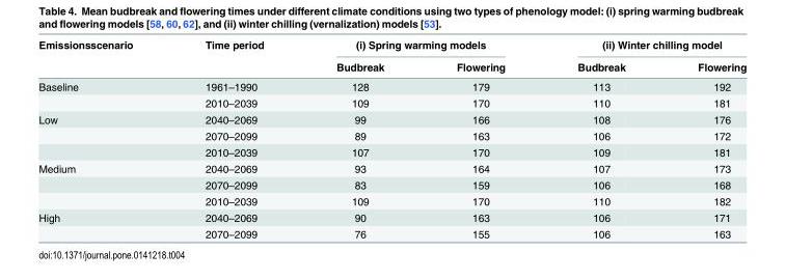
<table><thead><tr><td rowspan="2">Emissionsscenario</td><td rowspan="2">Time period</td><td colspan="2">(i) Spring warming models</td><td colspan="2">(ii) Winter chilling model</td></tr><tr><td>Budbreak</td><td>Flowering</td><td>Budbreak</td><td>Flowering</td></tr></thead><tbody><tr><td rowspan="2">Baseline</td><td>1961–1990</td><td>128</td><td>179</td><td>113</td><td>192</td></tr><tr><td>2010–2039</td><td>109</td><td>170</td><td>110</td><td>181</td></tr><tr><td rowspan="3">Low</td><td>2040–2069</td><td>99</td><td>166</td><td>108</td><td>176</td></tr><tr><td>2070–2099</td><td>89</td><td>163</td><td>106</td><td>172</td></tr><tr><td>2010–2039</td><td>107</td><td>170</td><td>109</td><td>181</td></tr><tr><td rowspan="3">Medium</td><td>2040–2069</td><td>93</td><td>164</td><td>107</td><td>173</td></tr><tr><td>2070–2099</td><td>83</td><td>159</td><td>106</td><td>168</td></tr><tr><td>2010–2039</td><td>109</td><td>170</td><td>110</td><td>182</td></tr><tr><td rowspan="2">High</td><td>2040–2069</td><td>90</td><td>163</td><td>106</td><td>171</td></tr><tr><td>2070–2099</td><td>76</td><td>155</td><td>106</td><td>163</td></tr></tbody></table>